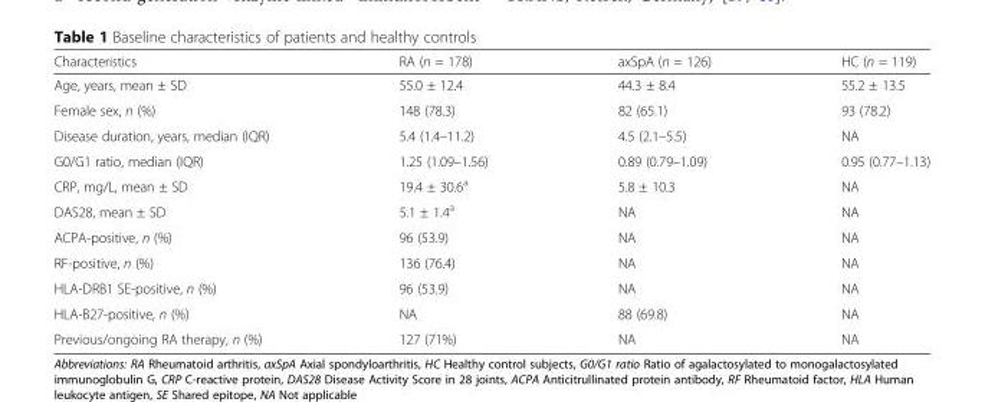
<table><thead><tr><td>Characteristics</td><td>RA (n = 178)</td><td>axSpA (n = 126)</td><td>HC (n = 119)</td></tr></thead><tbody><tr><td>Age, years, mean ± SD</td><td>55.0 ± 12.4</td><td>44.3 ± 8.4</td><td>55.2 ± 13.5</td></tr><tr><td>Female sex, n (%)</td><td>148 (78.3)</td><td>82 (65.1)</td><td>93 (78.2)</td></tr><tr><td>Disease duration, years, median (IQR)</td><td>5.4 (1.4–11.2)</td><td>4.5 (2.1–5.5)</td><td>NA</td></tr><tr><td>G0/G1 ratio, median (IQR)</td><td>1.25 (1.09–1.56)</td><td>0.89 (0.79–1.09)</td><td>0.95 (0.77–1.13)</td></tr><tr><td>CRP, mg/L, mean ± SD</td><td>19.4 ± 30.6<sup>a</sup></td><td>5.8 ± 10.3</td><td>NA</td></tr><tr><td>DAS28, mean ± SD</td><td>5.1 ± 1.4<sup>a</sup></td><td>NA</td><td>NA</td></tr><tr><td>ACPA-positive, n (%)</td><td>96 (53.9)</td><td>NA</td><td>NA</td></tr><tr><td>RF-positive, n (%)</td><td>136 (76.4)</td><td>NA</td><td>NA</td></tr><tr><td>HLA-DRB1 SE-positive, n (%)</td><td>96 (53.9)</td><td>NA</td><td>NA</td></tr><tr><td>HLA-B27-positive, n (%)</td><td>NA</td><td>88 (69.8)</td><td>NA</td></tr><tr><td>Previous/ongoing RA therapy, n (%)</td><td>127 (71%)</td><td>NA</td><td>NA</td></tr></tbody></table>